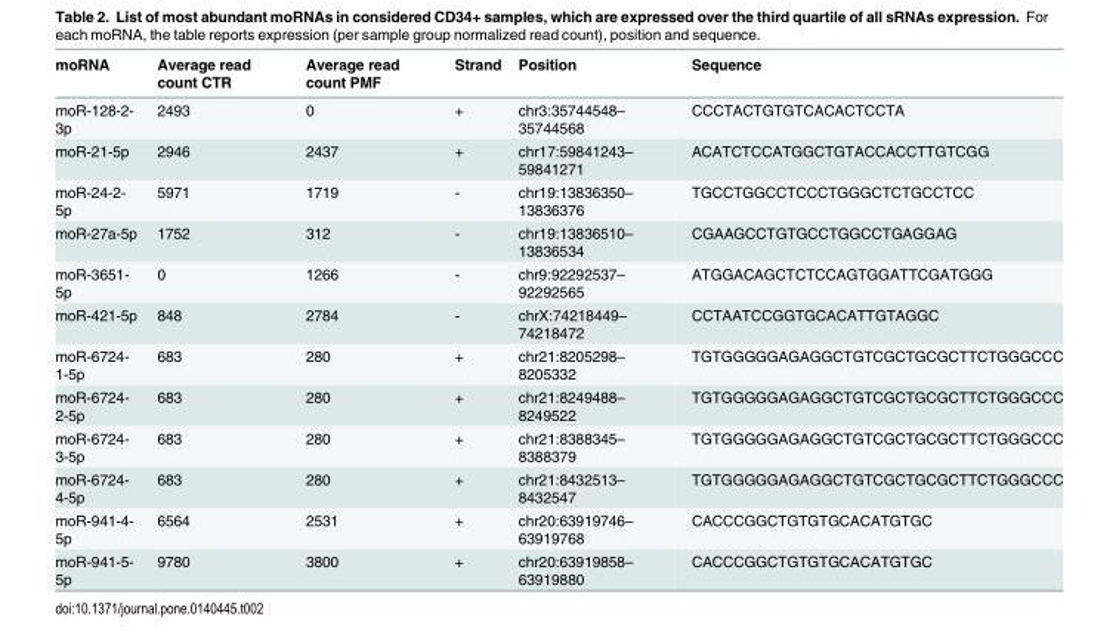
<table><thead><tr><td>moRNA</td><td>Average read count CTR</td><td>Average read count PMF</td><td>Strand</td><td>Position</td><td>Sequence</td></tr></thead><tbody><tr><td>moR-128-2- 3p</td><td>2493</td><td>0</td><td>+</td><td>chr3:35744548– 35744568</td><td>CCCTACTGTGTCACACTCCTA</td></tr><tr><td>moR-21-5p</td><td>2946</td><td>2437</td><td>+</td><td>chr17:59841243– 59841271</td><td>ACATCTCCATGGCTGTACCACCTTGTCGG</td></tr><tr><td>moR-24-2- 5p</td><td>5971</td><td>1719</td><td>-</td><td>chr19:13836350– 13836376</td><td>TGCCTGGCCTCCCTGGGCTCTGCCTCC</td></tr><tr><td>moR-27a-5p</td><td>1752</td><td>312</td><td>-</td><td>chr19:13836510– 13836534</td><td>CGAAGCCTGTGCCTGGCCTGAGGAG</td></tr><tr><td>moR-3651- 5p</td><td>0</td><td>1266</td><td>-</td><td>chr9:92292537– 92292565</td><td>ATGGACAGCTCTCCAGTGGATTCGATGGG</td></tr><tr><td>moR-421-5p</td><td>848</td><td>2784</td><td>-</td><td>chrX:74218449– 74218472</td><td>CCTAATCCGGTGCACATTGTAGGC</td></tr><tr><td>moR-6724- 1-5p</td><td>683</td><td>280</td><td>+</td><td>chr21:8205298– 8205332</td><td>TGTGGGGGAGAGGCTGTCGCTGCGCTTCTGGGCCC</td></tr><tr><td>moR-6724- 2-5p</td><td>683</td><td>280</td><td>+</td><td>chr21:8249488– 8249522</td><td>TGTGGGGGAGAGGCTGTCGCTGCGCTTCTGGGCCC</td></tr><tr><td>moR-6724- 3-5p</td><td>683</td><td>280</td><td>+</td><td>chr21:8388345– 8388379</td><td>TGTGGGGGAGAGGCTGTCGCTGCGCTTCTGGGCCC</td></tr><tr><td>moR-6724- 4-5p</td><td>683</td><td>280</td><td>+</td><td>chr21:8432513– 8432547</td><td>TGTGGGGGAGAGGCTGTCGCTGCGCTTCTGGGCCC</td></tr><tr><td>moR-941-4- 5p</td><td>6564</td><td>2531</td><td>+</td><td>chr20:63919746– 63919768</td><td>CACCCGGCTGTGTGCACATGTGC</td></tr><tr><td>moR-941-5- 5p</td><td>9780</td><td>3800</td><td>+</td><td>chr20:63919858– 63919880</td><td>CACCCGGCTGTGTGCACATGTGC</td></tr></tbody></table>